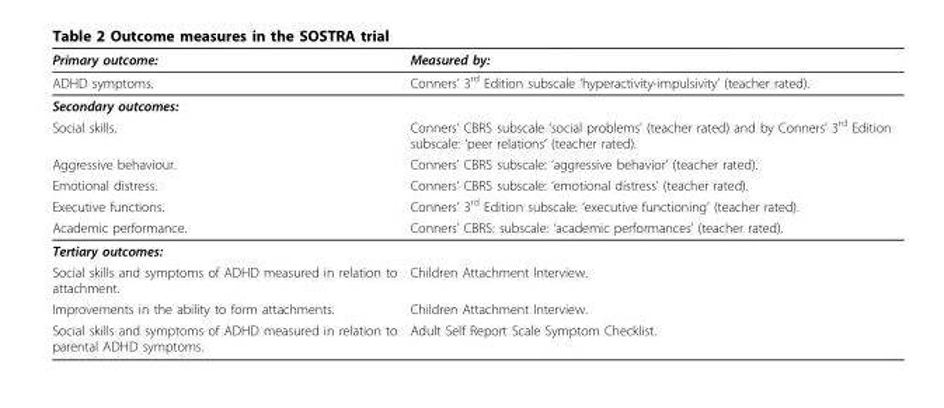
<table><thead><tr><td>Primary outcome:</td><td>Measured by:</td></tr></thead><tbody><tr><td>ADHD symptoms.</td><td>Conners’ 3<sup>rd</sup> Edition subscale ‘hyperactivity-impulsivity’ (teacher rated).</td></tr><tr><td colspan="2">Secondary outcomes:</td></tr><tr><td>Social skills.</td><td>Conners’ CBRS subscale ‘social problems’ (teacher rated) and by Conners’ 3<sup>rd</sup> Edition subscale: ‘peer relations’ (teacher rated).</td></tr><tr><td>Aggressive behaviour.</td><td>Conners’ CBRS subscale: ‘aggressive behavior’ (teacher rated).</td></tr><tr><td>Emotional distress.</td><td>Conners’ CBRS subscale: ‘emotional distress’ (teacher rated).</td></tr><tr><td>Executive functions.</td><td>Conners’ 3<sup>rd</sup> Edition subscale: ‘executive functioning’ (teacher rated).</td></tr><tr><td>Academic performance.</td><td>Conners’ CBRS: subscale: ‘academic performances’ (teacher rated).</td></tr><tr><td colspan="2">Tertiary outcomes:</td></tr><tr><td>Social skills and symptoms of ADHD measured in relation to attachment.</td><td>Children Attachment Interview.</td></tr><tr><td>Improvements in the ability to form attachments.</td><td>Children Attachment Interview.</td></tr><tr><td>Social skills and symptoms of ADHD measured in relation to parental ADHD symptoms.</td><td>Adult Self Report Scale Symptom Checklist.</td></tr></tbody></table>